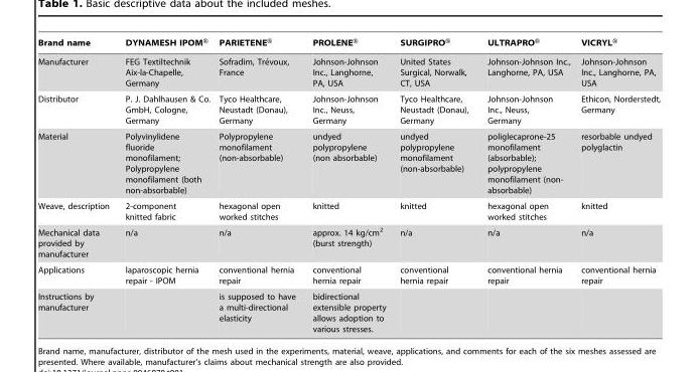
<table><thead><tr><td>Brand name</td><td>DYNAMESH IPOM®</td><td>PARIETENE®</td><td>PROLENE®</td><td>SURGIPRO®</td><td>ULTRAPRO®</td><td>VICRYL®</td></tr></thead><tbody><tr><td>Manufacturer</td><td>FEG Textiltechnik Aix-la-Chapelle, Germany</td><td>Sofradim, Tre´voux, France</td><td>Johnson-Johnson Inc., Langhorne, PA, USA</td><td>United States Surgical, Norwalk, CT, USA</td><td>Johnson-Johnson Inc., Langhorne, PA, USA</td><td>Johnson-Johnson Inc., Langhorne, PA, USA</td></tr><tr><td>Distributor</td><td>P. J. Dahlhausen &amp; Co. GmbH, Cologne, Germany</td><td>Tyco Healthcare, Neustadt (Donau), Germany</td><td>Johnson-Johnson Inc., Neuss, Germany</td><td>Tyco Healthcare, Neustadt (Donau), Germany</td><td>Johnson-Johnson Inc., Neuss, Germany</td><td>Ethicon, Norderstedt, Germany</td></tr><tr><td>Material</td><td>Polyvinylidene fluoride monofilament; Polypropylene monofilament (both non-absorbable)</td><td>Polypropylene monofilament (non-absorbable)</td><td>undyed polypropylene (non absorbable)</td><td>undyed polypropylene monofilament (non-absorbable)</td><td>poliglecaprone-25 monofilament (absorbable); polypropylene monofilament (non- absorbable)</td><td>resorbable undyed polyglactin</td></tr><tr><td>Weave, description</td><td>2-component knitted fabric</td><td>hexagonal open worked stitches</td><td>knitted</td><td>knitted</td><td>hexagonal open worked stitches</td><td>knitted</td></tr><tr><td>Mechanical data provided by manufacturer</td><td>n/a</td><td>n/a</td><td>approx. 14 kg/cm<sup>2</sup> (burst strength)</td><td>n/a</td><td>n/a</td><td>n/a</td></tr><tr><td>Applications</td><td>laparoscopic hernia repair - IPOM</td><td>conventional hernia repair</td><td>conventional hernia repair</td><td>conventional hernia repair</td><td>conventional hernia repair</td><td>conventional hernia repair</td></tr><tr><td>Instructions by manufacturer</td><td></td><td>is supposed to have a multi-directional elasticity</td><td>bidirectional extensible property allows adoption to various stresses.</td><td></td><td></td><td></td></tr></tbody></table>